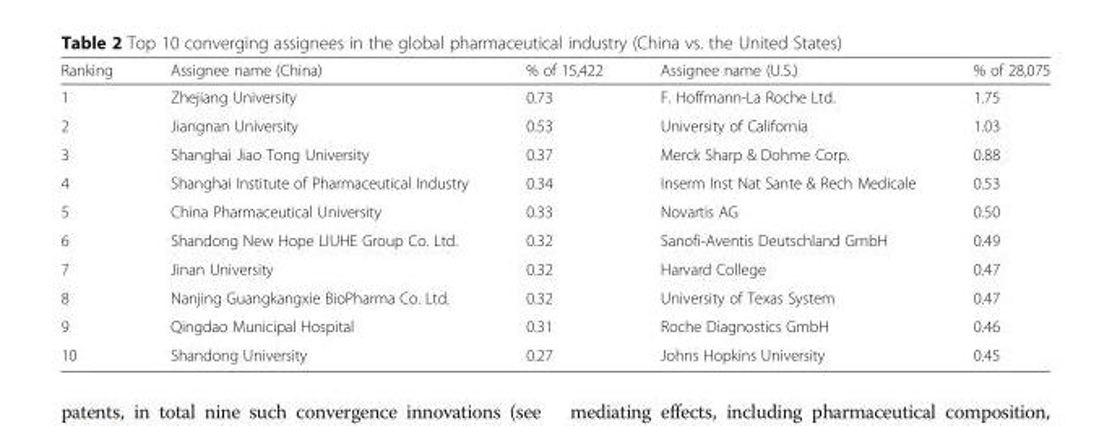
<table><thead><tr><td>Ranking</td><td>Assignee name (China)</td><td>% of 15,422</td><td>Assignee name (U.S.)</td><td>% of 28,075</td></tr></thead><tbody><tr><td>1</td><td>Zhejiang University</td><td>0.73</td><td>F. Hoffmann-La Roche Ltd.</td><td>1.75</td></tr><tr><td>2</td><td>Jiangnan University</td><td>0.53</td><td>University of California</td><td>1.03</td></tr><tr><td>3</td><td>Shanghai Jiao Tong University</td><td>0.37</td><td>Merck Sharp &amp; Dohme Corp.</td><td>0.88</td></tr><tr><td>4</td><td>Shanghai Institute of Pharmaceutical Industry</td><td>0.34</td><td>Inserm Inst Nat Sante &amp; Rech Medicale</td><td>0.53</td></tr><tr><td>5</td><td>China Pharmaceutical University</td><td>0.33</td><td>Novartis AG</td><td>0.50</td></tr><tr><td>6</td><td>Shandong New Hope LIUHE Group Co. Ltd.</td><td>0.32</td><td>Sanofi-Aventis Deutschland GmbH</td><td>0.49</td></tr><tr><td>7</td><td>Jinan University</td><td>0.32</td><td>Harvard College</td><td>0.47</td></tr><tr><td>8</td><td>Nanjing Guangkangxie BioPharma Co. Ltd.</td><td>0.32</td><td>University of Texas System</td><td>0.47</td></tr><tr><td>9</td><td>Qingdao Municipal Hospital</td><td>0.31</td><td>Roche Diagnostics GmbH</td><td>0.46</td></tr><tr><td>10</td><td>Shandong University</td><td>0.27</td><td>Johns Hopkins University</td><td>0.45</td></tr></tbody></table>